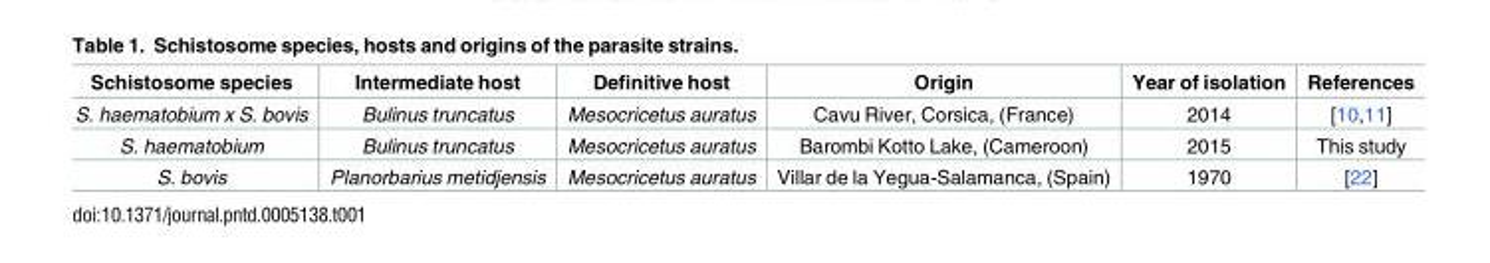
<table><thead><tr><td>Schistosome species</td><td>Intermediate host</td><td>Definitive host</td><td>Origin</td><td>Year of isolation</td><td>References</td></tr></thead><tbody><tr><td>S. haematobium x S. bovis</td><td>Bulinus truncatus</td><td>Mesocricetus auratus</td><td>Cavu River, Corsica, (France)</td><td>2014</td><td>[10,11]</td></tr><tr><td>S. haematobium</td><td>Bulinus truncatus</td><td>Mesocricetus auratus</td><td>Barombi Kotto Lake, (Cameroon)</td><td>2015</td><td>This study</td></tr><tr><td>S. bovis</td><td>Planorbarius metidjensis</td><td>Mesocricetus auratus</td><td>Villar de la Yegua-Salamanca, (Spain)</td><td>1970</td><td>[22]</td></tr></tbody></table>